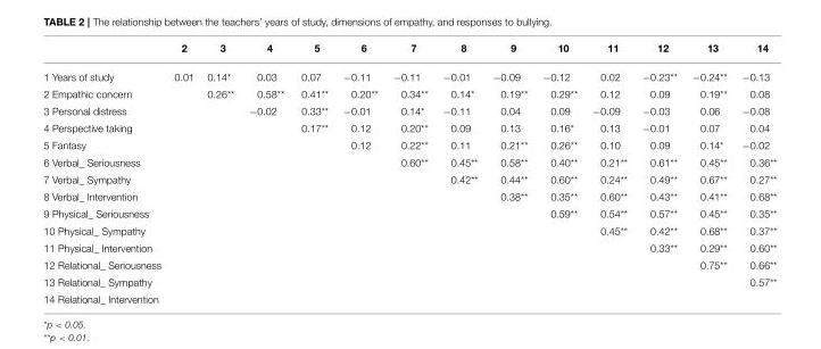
<table><thead><tr><td></td><td>2</td><td>3</td><td>4</td><td>5</td><td>6</td><td>7</td><td>8</td><td>9</td><td>10</td><td>11</td><td>12</td><td>13</td><td>14</td></tr></thead><tbody><tr><td>1 Years of study</td><td>0.01</td><td>0.14*</td><td>0.03</td><td>0.07</td><td>−0.11</td><td>−0.11</td><td>−0.01</td><td>−0.09</td><td>−0.12</td><td>0.02</td><td>−0.23**</td><td>−0.24**</td><td>−0.13</td></tr><tr><td>2 Empathic concern</td><td></td><td>0.26**</td><td>0.58**</td><td>0.41**</td><td>0.20**</td><td>0.34**</td><td>0.14*</td><td>0.19**</td><td>0.29**</td><td>0.12</td><td>0.09</td><td>0.19**</td><td>0.08</td></tr><tr><td>3 Personal distress</td><td></td><td></td><td>−0.02</td><td>0.33**</td><td>−0.01</td><td>0.14*</td><td>−0.11</td><td>0.04</td><td>0.09</td><td>−0.09</td><td>−0.03</td><td>0.06</td><td>−0.08</td></tr><tr><td>4 Perspective taking</td><td></td><td></td><td></td><td>0.17**</td><td>0.12</td><td>0.20**</td><td>0.09</td><td>0.13</td><td>0.16*</td><td>0.13</td><td>−0.01</td><td>0.07</td><td>0.04</td></tr><tr><td>5 Fantasy</td><td></td><td></td><td></td><td></td><td>0.12</td><td>0.22**</td><td>0.11</td><td>0.21**</td><td>0.26**</td><td>0.10</td><td>0.09</td><td>0.14*</td><td>−0.02</td></tr><tr><td>6 Verbal_ Seriousness</td><td></td><td></td><td></td><td></td><td></td><td>0.60**</td><td>0.45**</td><td>0.58**</td><td>0.40**</td><td>0.21**</td><td>0.61**</td><td>0.45**</td><td>0.36**</td></tr><tr><td>7 Verbal_ Sympathy</td><td></td><td></td><td></td><td></td><td></td><td></td><td>0.42**</td><td>0.44**</td><td>0.60**</td><td>0.24**</td><td>0.49**</td><td>0.67**</td><td>0.27**</td></tr><tr><td>8 Verbal_ Intervention</td><td></td><td></td><td></td><td></td><td></td><td></td><td></td><td>0.38**</td><td>0.35**</td><td>0.60**</td><td>0.43**</td><td>0.41**</td><td>0.68**</td></tr><tr><td>9 Physical_ Seriousness</td><td></td><td></td><td></td><td></td><td></td><td></td><td></td><td></td><td>0.59**</td><td>0.54**</td><td>0.57**</td><td>0.45**</td><td>0.35**</td></tr><tr><td>10 Physical_ Sympathy</td><td></td><td></td><td></td><td></td><td></td><td></td><td></td><td></td><td></td><td>0.45**</td><td>0.42**</td><td>0.68**</td><td>0.37**</td></tr><tr><td>11 Physical_ Intervention</td><td></td><td></td><td></td><td></td><td></td><td></td><td></td><td></td><td></td><td></td><td>0.33**</td><td>0.29**</td><td>0.60**</td></tr><tr><td>12 Relational_ Seriousness</td><td></td><td></td><td></td><td></td><td></td><td></td><td></td><td></td><td></td><td></td><td></td><td>0.75**</td><td>0.66**</td></tr><tr><td>13 Relational_ Sympathy</td><td></td><td></td><td></td><td></td><td></td><td></td><td></td><td></td><td></td><td></td><td></td><td></td><td>0.57**</td></tr><tr><td>14 Relational_ Intervention</td><td></td><td></td><td></td><td></td><td></td><td></td><td></td><td></td><td></td><td></td><td></td><td></td><td></td></tr></tbody></table>